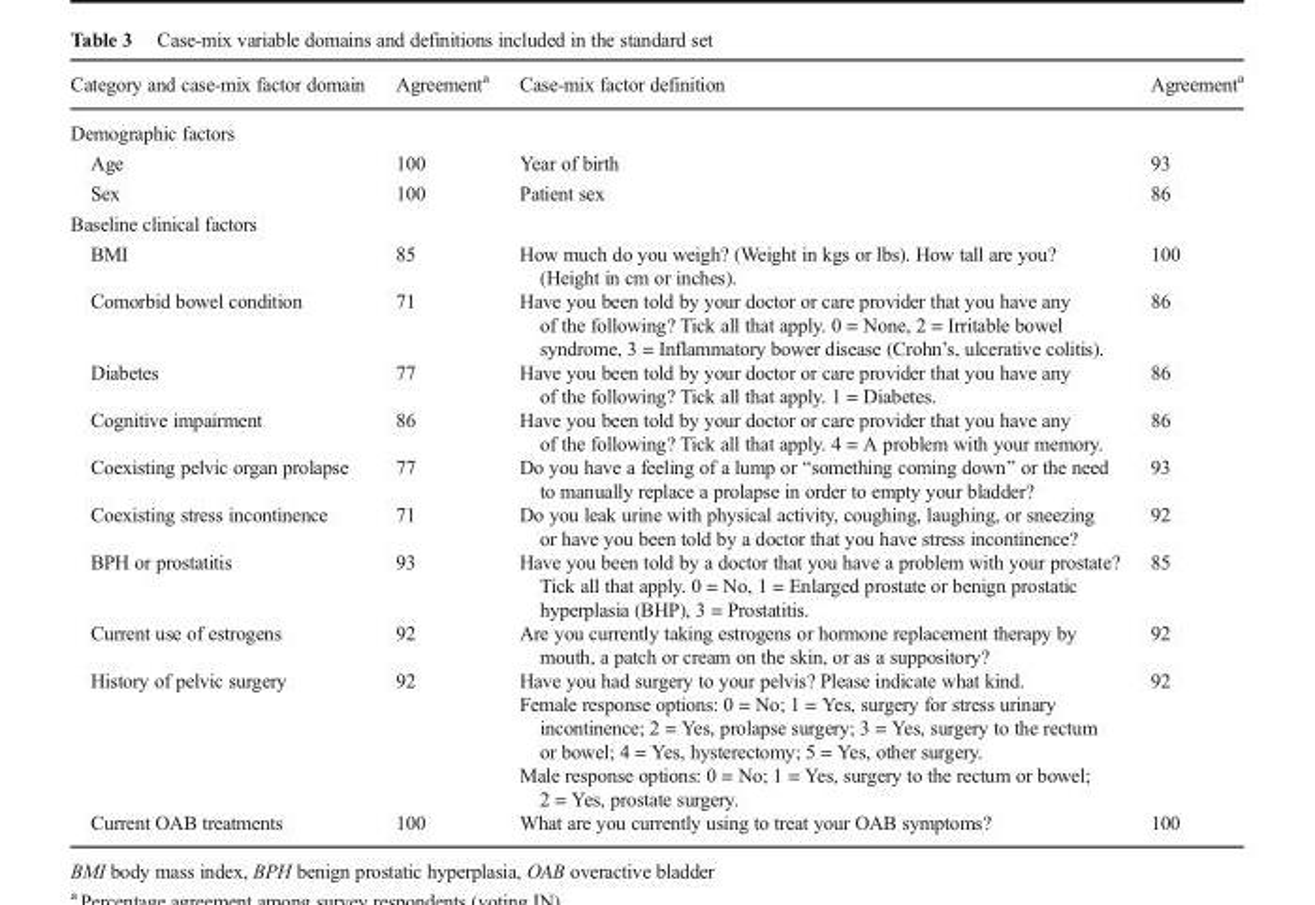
<table><thead><tr><td>Category and case-mix factor domain</td><td>Agreement<sup>a</sup></td><td>Case-mix factor definition</td><td>Agreement<sup>a</sup></td></tr></thead><tbody><tr><td colspan="4">Demographic factors</td></tr><tr><td>Age</td><td>100</td><td>Year of birth</td><td>93</td></tr><tr><td>Sex</td><td>100</td><td>Patient sex</td><td>86</td></tr><tr><td colspan="4">Baseline clinical factors</td></tr><tr><td>BMI</td><td>85</td><td>How much do you weigh? (Weight in kgs or lbs). How tall are you? (Height in cm or inches).</td><td>100</td></tr><tr><td>Comorbid bowel condition</td><td>71</td><td>Have you been told by your doctor or care provider that you have any of the following? Tick all that apply. 0 = None, 2 = Irritable bowel syndrome, 3 = Inflammatory bower disease (Crohn’s, ulcerative colitis).</td><td>86</td></tr><tr><td>Diabetes</td><td>77</td><td>Have you been told by your doctor or care provider that you have any of the following? Tick all that apply. 1 = Diabetes.</td><td>86</td></tr><tr><td>Cognitive impairment</td><td>86</td><td>Have you been told by your doctor or care provider that you have any of the following? Tick all that apply. 4 = A problem with your memory.</td><td>86</td></tr><tr><td>Coexisting pelvic organ prolapse</td><td>77</td><td>Do you have a feeling of a lump or “something coming down” or the need to manually replace a prolapse in order to empty your bladder?</td><td>93</td></tr><tr><td>Coexisting stress incontinence</td><td>71</td><td>Do you leak urine with physical activity, coughing, laughing, or sneezing or have you been told by a doctor that you have stress incontinence?</td><td>92</td></tr><tr><td>BPH or prostatitis</td><td>93</td><td>Have you been told by a doctor that you have a problem with your prostate? Tick all that apply. 0 = No, 1 = Enlarged prostate or benign prostatic hyperplasia (BHP), 3 = Prostatitis.</td><td>85</td></tr><tr><td>Current use of estrogens</td><td>92</td><td>Are you currently taking estrogens or hormone replacement therapy by mouth, a patch or cream on the skin, or as a suppository?</td><td>92</td></tr><tr><td>History of pelvic surgery</td><td>92</td><td>Have you had surgery to your pelvis? Please indicate what kind. Female response options: 0 = No; 1 = Yes, surgery for stress urinary incontinence; 2 = Yes, prolapse surgery; 3 = Yes, surgery to the rectum or bowel; 4 = Yes, hysterectomy; 5 = Yes, other surgery. Male response options: 0 = No; 1 = Yes, surgery to the rectum or bowel; 2 = Yes, prostate surgery.</td><td>92</td></tr><tr><td>Current OAB treatments</td><td>100</td><td>What are you currently using to treat your OAB symptoms?</td><td>100</td></tr></tbody></table>